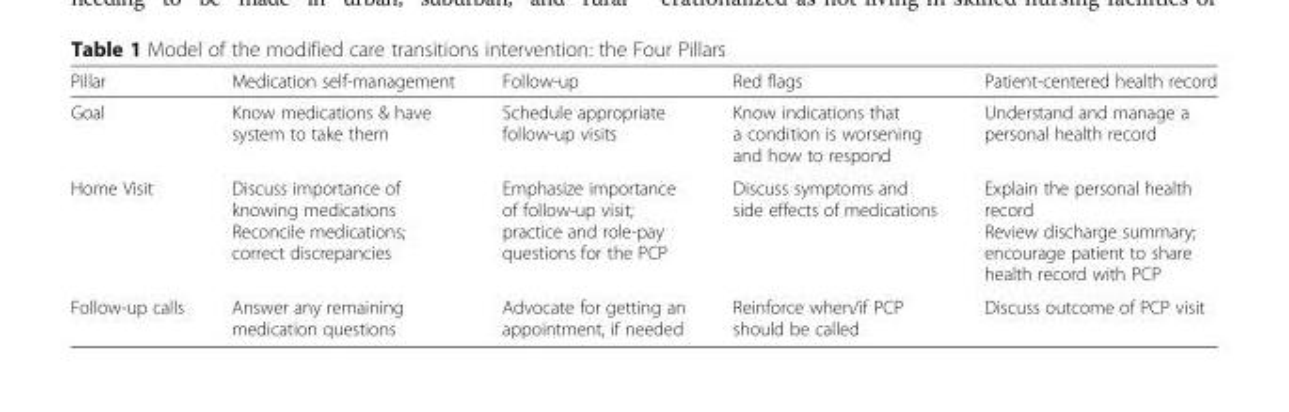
<table><thead><tr><td>Pillar</td><td>Medication self-management</td><td>Follow-up</td><td>Red flags</td><td>Patient-centered health record</td></tr></thead><tbody><tr><td>Goal</td><td>Know medications &amp; have system to take them</td><td>Schedule appropriate follow-up visits</td><td>Know indications that a condition is worsening and how to respond</td><td>Understand and manage a personal health record</td></tr><tr><td>Home Visit</td><td>Discuss importance of knowing medications Reconcile medications; correct discrepancies</td><td>Emphasize importance of follow-up visit; practice and role-pay questions for the PCP</td><td>Discuss symptoms and side effects of medications</td><td>Explain the personal health record Review discharge summary; encourage patient to share health record with PCP</td></tr><tr><td>Follow-up calls</td><td>Answer any remaining medication questions</td><td>Advocate for getting an appointment, if needed</td><td>Reinforce when/if PCP should be called</td><td>Discuss outcome of PCP visit</td></tr></tbody></table>